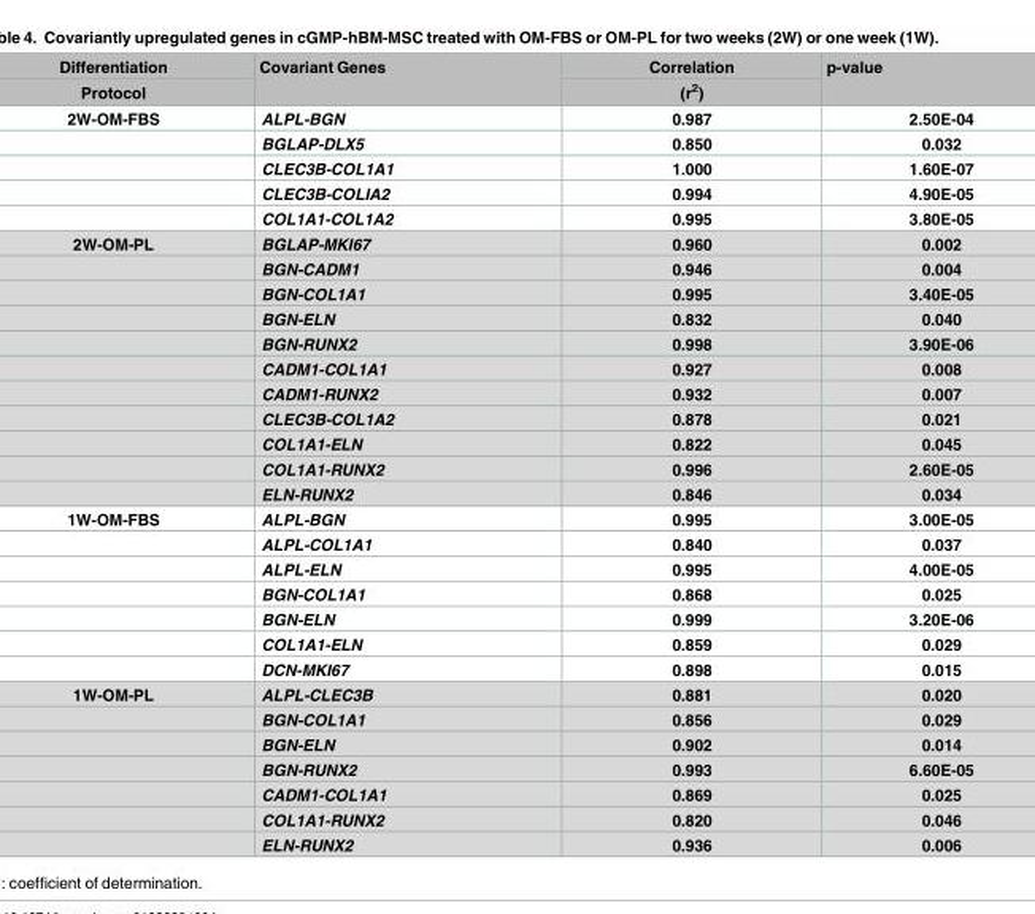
<table><thead><tr><td rowspan="2">Differentiation Protocol</td><td rowspan="2">Covariant Genes</td><td rowspan="2">Correlation (r<sup>2</sup>)</td><td rowspan="2">p-value</td></tr><tr></tr></thead><tbody><tr><td rowspan="5">2W-OM-FBS</td><td>ALPL-BGN</td><td>0.987</td><td>2.50E-04</td></tr><tr><td>BGLAP-DLX5</td><td>0.850</td><td>0.032</td></tr><tr><td>CLEC3B-COL1A1</td><td>1.000</td><td>1.60E-07</td></tr><tr><td>CLEC3B-COLIA2</td><td>0.994</td><td>4.90E-05</td></tr><tr><td>COL1A1-COL1A2</td><td>0.995</td><td>3.80E-05</td></tr><tr><td rowspan="11">2W-OM-PL</td><td>BGLAP-MKI67</td><td>0.960</td><td>0.002</td></tr><tr><td>BGN-CADM1</td><td>0.946</td><td>0.004</td></tr><tr><td>BGN-COL1A1</td><td>0.995</td><td>3.40E-05</td></tr><tr><td>BGN-ELN</td><td>0.832</td><td>0.040</td></tr><tr><td>BGN-RUNX2</td><td>0.998</td><td>3.90E-06</td></tr><tr><td>CADM1-COL1A1</td><td>0.927</td><td>0.008</td></tr><tr><td>CADM1-RUNX2</td><td>0.932</td><td>0.007</td></tr><tr><td>CLEC3B-COL1A2</td><td>0.878</td><td>0.021</td></tr><tr><td>COL1A1-ELN</td><td>0.822</td><td>0.045</td></tr><tr><td>COL1A1-RUNX2</td><td>0.996</td><td>2.60E-05</td></tr><tr><td>ELN-RUNX2</td><td>0.846</td><td>0.034</td></tr><tr><td rowspan="7">1W-OM-FBS</td><td>ALPL-BGN</td><td>0.995</td><td>3.00E-05</td></tr><tr><td>ALPL-COL1A1</td><td>0.840</td><td>0.037</td></tr><tr><td>ALPL-ELN</td><td>0.995</td><td>4.00E-05</td></tr><tr><td>BGN-COL1A1</td><td>0.868</td><td>0.025</td></tr><tr><td>BGN-ELN</td><td>0.999</td><td>3.20E-06</td></tr><tr><td>COL1A1-ELN</td><td>0.859</td><td>0.029</td></tr><tr><td>DCN-MKI67</td><td>0.898</td><td>0.015</td></tr><tr><td rowspan="7">1W-OM-PL</td><td>ALPL-CLEC3B</td><td>0.881</td><td>0.020</td></tr><tr><td>BGN-COL1A1</td><td>0.856</td><td>0.029</td></tr><tr><td>BGN-ELN</td><td>0.902</td><td>0.014</td></tr><tr><td>BGN-RUNX2</td><td>0.993</td><td>6.60E-05</td></tr><tr><td>CADM1-COL1A1</td><td>0.869</td><td>0.025</td></tr><tr><td>COL1A1-RUNX2</td><td>0.820</td><td>0.046</td></tr><tr><td>ELN-RUNX2</td><td>0.936</td><td>0.006</td></tr></tbody></table>